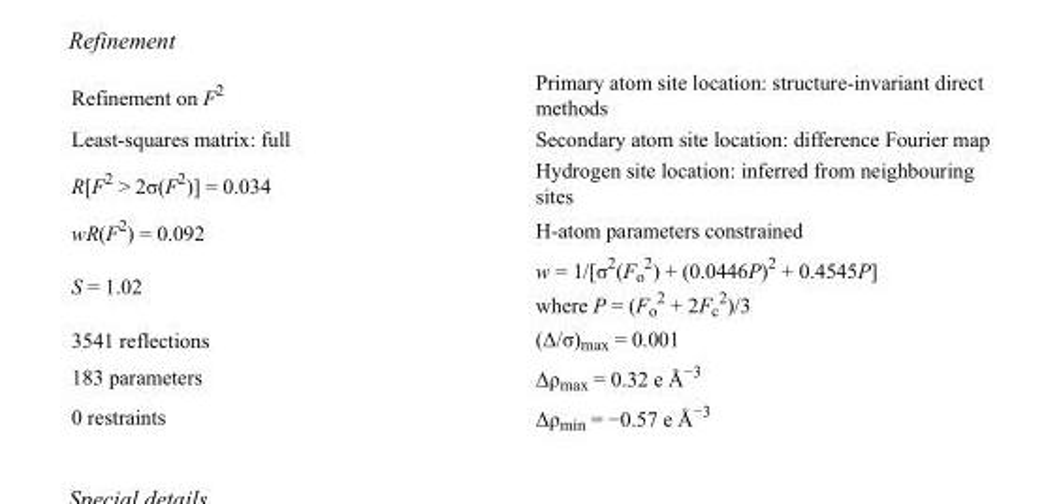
<table><tbody><tr><td>Refinement on F<sup>2</sup></td><td>Primary atom site location: structure-invariant direct methods</td></tr><tr><td>Least-squares matrix: full</td><td>Secondary atom site location: difference Fourier map</td></tr><tr><td>R[F<sup>2</sup> &gt; 2σ(F<sup>2</sup>)] = 0.034</td><td>Hydrogen site location: inferred from neighbouring sites</td></tr><tr><td>wR(F<sup>2</sup>) = 0.092</td><td>H-atom parameters constrained</td></tr><tr><td>S = 1.02</td><td>w = 1/[σ<sup>2</sup>(F<sub>o</sub> <sup>2</sup>) + (0.0446P)<sup>2</sup> + 0.4545P] where P = (F<sub>o</sub> <sup>2</sup> + 2F<sub>c</sub> <sup>2</sup>)/3</td></tr><tr><td>3541 reflections</td><td>(Δ/σ)<sub>max</sub> = 0.001</td></tr><tr><td>183 parameters</td><td>Δρ<sub>max</sub> = 0.32 e Å<sup>−3</sup></td></tr><tr><td>0 restraints</td><td>Δρ<sub>min</sub> = −0.57 e Å<sup>−3</sup></td></tr></tbody></table>